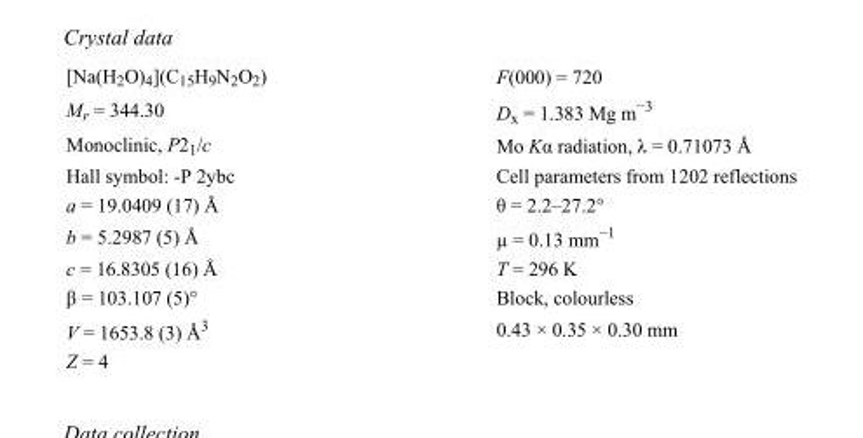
<table><tbody><tr><td>[Na(H<sub>2</sub>O)<sub>4</sub>](C<sub>15</sub>H<sub>9</sub>N<sub>2</sub>O<sub>2</sub>)</td><td>F(000) = 720</td></tr><tr><td>M<sub>r</sub> = 344.30</td><td>D<sub>x</sub> = 1.383 Mg m<sup>−3</sup></td></tr><tr><td>Monoclinic, P2<sub>1</sub>/c</td><td>Mo Kα radiation, λ = 0.71073 Å</td></tr><tr><td>Hall symbol: -P 2ybc</td><td>Cell parameters from 1202 reflections</td></tr><tr><td>a = 19.0409 (17) Å</td><td>θ = 2.2–27.2°</td></tr><tr><td>b = 5.2987 (5) Å</td><td>µ = 0.13 mm<sup>−1</sup></td></tr><tr><td>c = 16.8305 (16) Å</td><td>T = 296 K</td></tr><tr><td>β = 103.107 (5)°</td><td>Block, colourless</td></tr><tr><td>V = 1653.8 (3) Å<sup>3</sup></td><td>0.43 × 0.35 × 0.30 mm</td></tr><tr><td>Z = 4</td><td></td></tr></tbody></table>